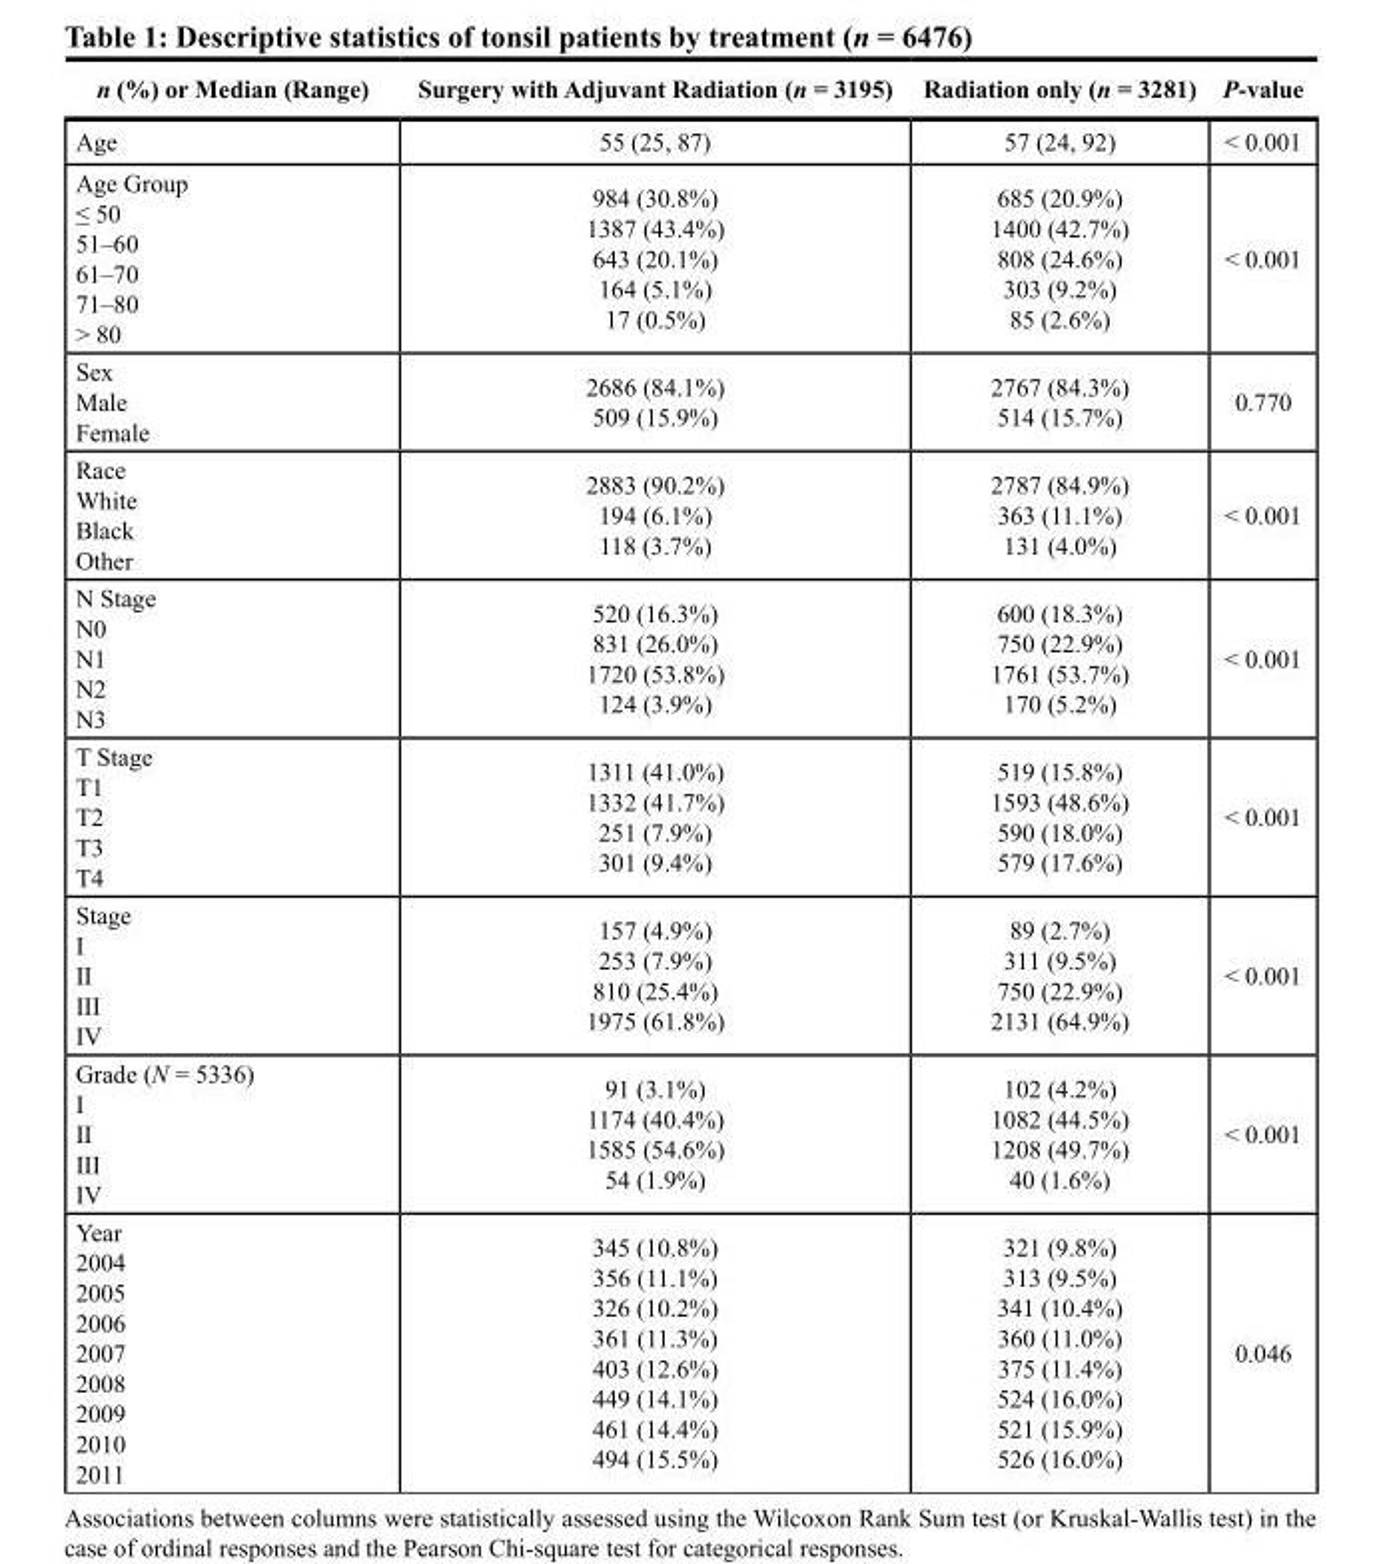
<table><thead><tr><td>n (%) or Median (Range)</td><td>Surgery with Adjuvant Radiation (n = 3195)</td><td>Radiation only (n = 3281)</td><td>P-value</td></tr></thead><tbody><tr><td>Age</td><td>55 (25, 87)</td><td>57 (24, 92)</td><td>&lt; 0.001</td></tr><tr><td>Age Group ≤ 50 51–60 61–70 71–80 &gt; 80</td><td>984 (30.8%) 1387 (43.4%) 643 (20.1%) 164 (5.1%) 17 (0.5%)</td><td>685 (20.9%) 1400 (42.7%) 808 (24.6%) 303 (9.2%) 85 (2.6%)</td><td>&lt; 0.001</td></tr><tr><td>Sex Male Female</td><td>2686 (84.1%) 509 (15.9%)</td><td>2767 (84.3%) 514 (15.7%)</td><td>0.770</td></tr><tr><td>Race White Black Other</td><td>2883 (90.2%) 194 (6.1%) 118 (3.7%)</td><td>2787 (84.9%) 363 (11.1%) 131 (4.0%)</td><td>&lt; 0.001</td></tr><tr><td>N Stage N0 N1 N2 N3</td><td>520 (16.3%) 831 (26.0%) 1720 (53.8%) 124 (3.9%)</td><td>600 (18.3%) 750 (22.9%) 1761 (53.7%) 170 (5.2%)</td><td>&lt; 0.001</td></tr><tr><td>T Stage T1 T2 T3 T4</td><td>1311 (41.0%) 1332 (41.7%) 251 (7.9%) 301 (9.4%)</td><td>519 (15.8%) 1593 (48.6%) 590 (18.0%) 579 (17.6%)</td><td>&lt; 0.001</td></tr><tr><td>Stage I II III IV</td><td>157 (4.9%) 253 (7.9%) 810 (25.4%) 1975 (61.8%)</td><td>89 (2.7%) 311 (9.5%) 750 (22.9%) 2131 (64.9%)</td><td>&lt; 0.001</td></tr><tr><td>Grade (N = 5336) I II III IV</td><td>91 (3.1%) 1174 (40.4%) 1585 (54.6%) 54 (1.9%)</td><td>102 (4.2%) 1082 (44.5%) 1208 (49.7%) 40 (1.6%)</td><td>&lt; 0.001</td></tr><tr><td>Year 2004 2005 2006 2007 2008 2009 2010 2011</td><td>345 (10.8%) 356 (11.1%) 326 (10.2%) 361 (11.3%) 403 (12.6%) 449 (14.1%) 461 (14.4%) 494 (15.5%)</td><td>321 (9.8%) 313 (9.5%) 341 (10.4%) 360 (11.0%) 375 (11.4%) 524 (16.0%) 521 (15.9%) 526 (16.0%)</td><td>0.046</td></tr></tbody></table>